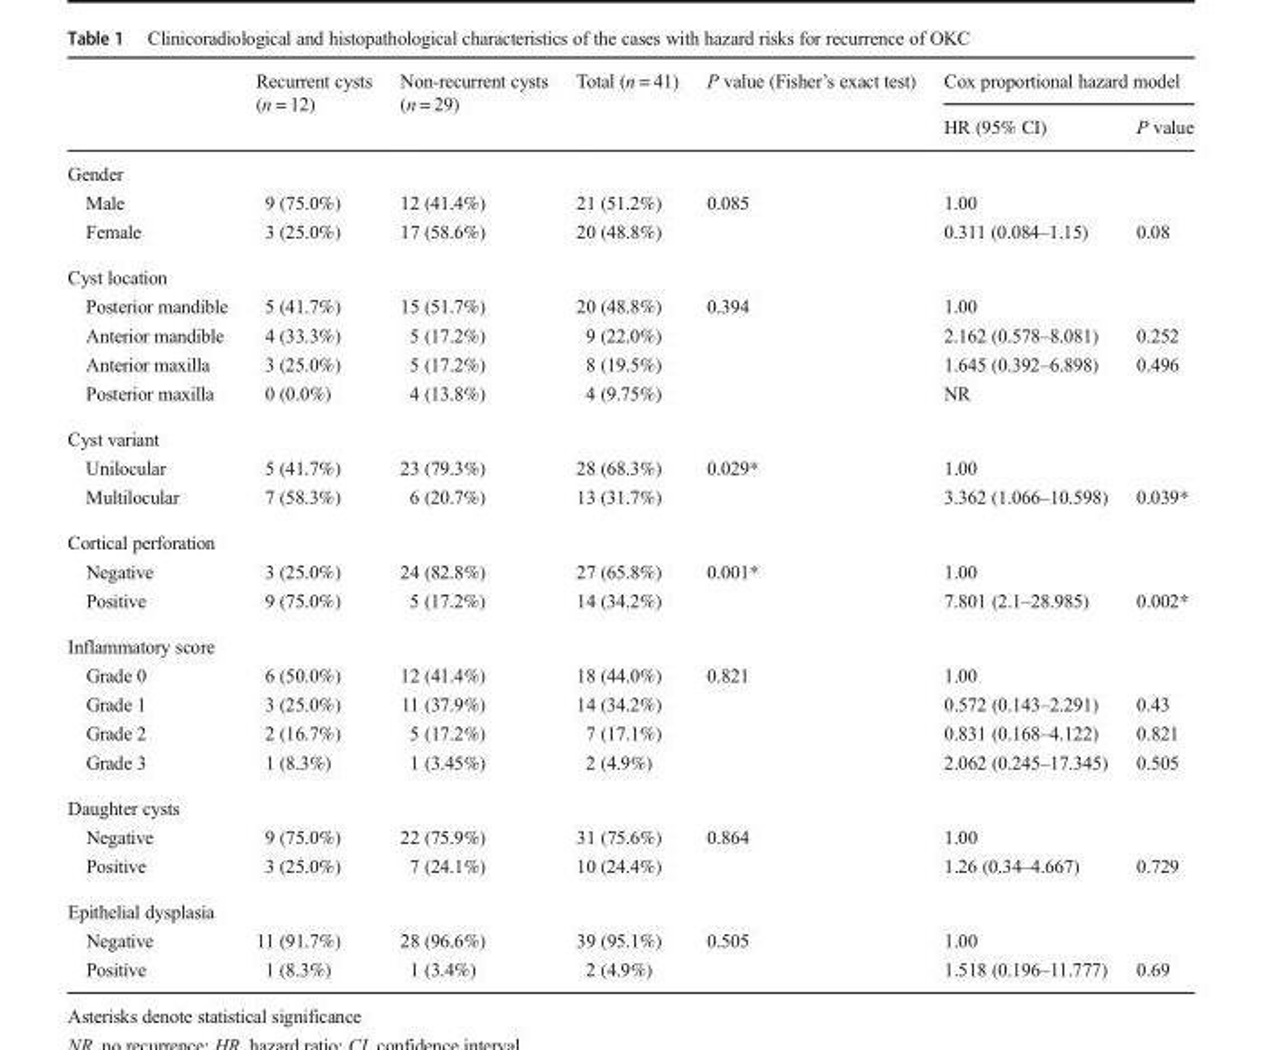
<table><thead><tr><td rowspan="2"></td><td rowspan="2">Recurrent cysts (n = 12)</td><td rowspan="2">Non-recurrent cysts (n = 29)</td><td rowspan="2">Total (n = 41)</td><td rowspan="2">P value (Fisher’s exact test)</td><td colspan="2">Cox proportional hazard model</td></tr><tr><td>HR (95% CI)</td><td>P value</td></tr></thead><tbody><tr><td colspan="7">Gender</td></tr><tr><td>Male</td><td>9 (75.0%)</td><td>12 (41.4%)</td><td>21 (51.2%)</td><td rowspan="2">0.085</td><td>1.00</td><td></td></tr><tr><td>Female</td><td>3 (25.0%)</td><td>17 (58.6%)</td><td>20 (48.8%)</td><td>0.311 (0.084–1.15)</td><td>0.08</td></tr><tr><td colspan="7">Cyst location</td></tr><tr><td>Posterior mandible</td><td>5 (41.7%)</td><td>15 (51.7%)</td><td>20 (48.8%)</td><td rowspan="4">0.394</td><td>1.00</td><td></td></tr><tr><td>Anterior mandible</td><td>4 (33.3%)</td><td>5 (17.2%)</td><td>9 (22.0%)</td><td>2.162 (0.578–8.081)</td><td>0.252</td></tr><tr><td>Anterior maxilla</td><td>3 (25.0%)</td><td>5 (17.2%)</td><td>8 (19.5%)</td><td>1.645 (0.392–6.898)</td><td>0.496</td></tr><tr><td>Posterior maxilla</td><td>0 (0.0%)</td><td>4 (13.8%)</td><td>4 (9.75%)</td><td colspan="2">NR</td></tr><tr><td colspan="7">Cyst variant</td></tr><tr><td>Unilocular</td><td>5 (41.7%)</td><td>23 (79.3%)</td><td>28 (68.3%)</td><td rowspan="2">0.029*</td><td>1.00</td><td></td></tr><tr><td>Multilocular</td><td>7 (58.3%)</td><td>6 (20.7%)</td><td>13 (31.7%)</td><td>3.362 (1.066–10.598)</td><td>0.039*</td></tr><tr><td colspan="7">Cortical perforation</td></tr><tr><td>Negative</td><td>3 (25.0%)</td><td>24 (82.8%)</td><td>27 (65.8%)</td><td rowspan="2">0.001*</td><td>1.00</td><td></td></tr><tr><td>Positive</td><td>9 (75.0%)</td><td>5 (17.2%)</td><td>14 (34.2%)</td><td>7.801 (2.1–28.985)</td><td>0.002*</td></tr><tr><td colspan="7">Inflammatory score</td></tr><tr><td>Grade 0</td><td>6 (50.0%)</td><td>12 (41.4%)</td><td>18 (44.0%)</td><td rowspan="4">0.821</td><td>1.00</td><td></td></tr><tr><td>Grade 1</td><td>3 (25.0%)</td><td>11 (37.9%)</td><td>14 (34.2%)</td><td>0.572 (0.143–2.291)</td><td>0.43</td></tr><tr><td>Grade 2</td><td>2 (16.7%)</td><td>5 (17.2%)</td><td>7 (17.1%)</td><td>0.831 (0.168–4.122)</td><td>0.821</td></tr><tr><td>Grade 3</td><td>1 (8.3%)</td><td>1 (3.45%)</td><td>2 (4.9%)</td><td>2.062 (0.245–17.345)</td><td>0.505</td></tr><tr><td colspan="7">Daughter cysts</td></tr><tr><td>Negative</td><td>9 (75.0%)</td><td>22 (75.9%)</td><td>31 (75.6%)</td><td rowspan="2">0.864</td><td>1.00</td><td></td></tr><tr><td>Positive</td><td>3 (25.0%)</td><td>7 (24.1%)</td><td>10 (24.4%)</td><td>1.26 (0.34–4.667)</td><td>0.729</td></tr><tr><td colspan="7">Epithelial dysplasia</td></tr><tr><td>Negative</td><td>11 (91.7%)</td><td>28 (96.6%)</td><td>39 (95.1%)</td><td rowspan="2">0.505</td><td>1.00</td><td></td></tr><tr><td>Positive</td><td>1 (8.3%)</td><td>1 (3.4%)</td><td>2 (4.9%)</td><td>1.518 (0.196–11.777)</td><td>0.69</td></tr></tbody></table>